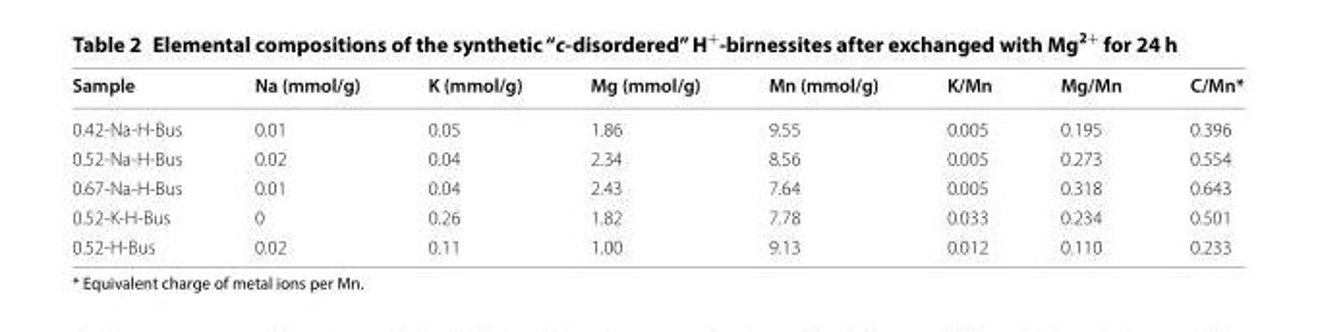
<table><thead><tr><td>Sample</td><td>Na (mmol/g)</td><td>K (mmol/g)</td><td>Mg (mmol/g)</td><td>Mn (mmol/g)</td><td>K/Mn</td><td>Mg/Mn</td><td>C/Mn*</td></tr></thead><tbody><tr><td>0.42-Na-H-Bus</td><td>0.01</td><td>0.05</td><td>1.86</td><td>9.55</td><td>0.005</td><td>0.195</td><td>0.396</td></tr><tr><td>0.52-Na-H-Bus</td><td>0.02</td><td>0.04</td><td>2.34</td><td>8.56</td><td>0.005</td><td>0.273</td><td>0.554</td></tr><tr><td>0.67-Na-H-Bus</td><td>0.01</td><td>0.04</td><td>2.43</td><td>7.64</td><td>0.005</td><td>0.318</td><td>0.643</td></tr><tr><td>0.52-K-H-Bus</td><td>0</td><td>0.26</td><td>1.82</td><td>7.78</td><td>0.033</td><td>0.234</td><td>0.501</td></tr><tr><td>0.52-H-Bus</td><td>0.02</td><td>0.11</td><td>1.00</td><td>9.13</td><td>0.012</td><td>0.110</td><td>0.233</td></tr></tbody></table>